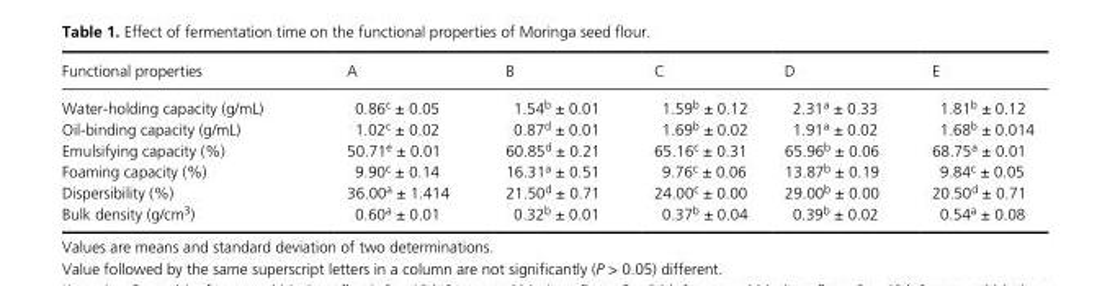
<table><thead><tr><td>Functional properties</td><td>A</td><td>B</td><td>C</td><td>D</td><td>E</td></tr></thead><tbody><tr><td>Water- holding capacity (g/mL)</td><td>0.86<sup>c</sup> ± 0.05</td><td>1.54<sup>b</sup> ± 0.01</td><td>1.59<sup>b</sup> ± 0.12</td><td>2.31<sup>a</sup> ± 0.33</td><td>1.81<sup>b</sup> ± 0.12</td></tr><tr><td>Oil- binding capacity (g/mL)</td><td>1.02<sup>c</sup> ± 0.02</td><td>0.87<sup>d</sup> ± 0.01</td><td>1.69<sup>b</sup> ± 0.02</td><td>1.91<sup>a</sup> ± 0.02</td><td>1.68<sup>b</sup> ± 0.014</td></tr><tr><td>Emulsifying capacity (%)</td><td>50.71<sup>e</sup> ± 0.01</td><td>60.85<sup>d</sup> ± 0.21</td><td>65.16<sup>c</sup> ± 0.31</td><td>65.96<sup>b</sup> ± 0.06</td><td>68.75<sup>a</sup> ± 0.01</td></tr><tr><td>Foaming capacity (%)</td><td>9.90<sup>c</sup> ± 0.14</td><td>16.31<sup>a</sup> ± 0.51</td><td>9.76<sup>c</sup> ± 0.06</td><td>13.87<sup>b</sup> ± 0.19</td><td>9.84<sup>c</sup> ± 0.05</td></tr><tr><td>Dispersibility (%)</td><td>36.00<sup>a</sup> ± 1.414</td><td>21.50<sup>d</sup> ± 0.71</td><td>24.00<sup>c</sup> ± 0.00</td><td>29.00<sup>b</sup> ± 0.00</td><td>20.50<sup>d</sup> ± 0.71</td></tr><tr><td>Bulk density (g/cm<sup>3</sup>)</td><td>0.60<sup>a</sup> ± 0.01</td><td>0.32<sup>b</sup> ± 0.01</td><td>0.37<sup>b</sup> ± 0.04</td><td>0.39<sup>b</sup> ± 0.02</td><td>0.54<sup>a</sup> ± 0.08</td></tr></tbody></table>